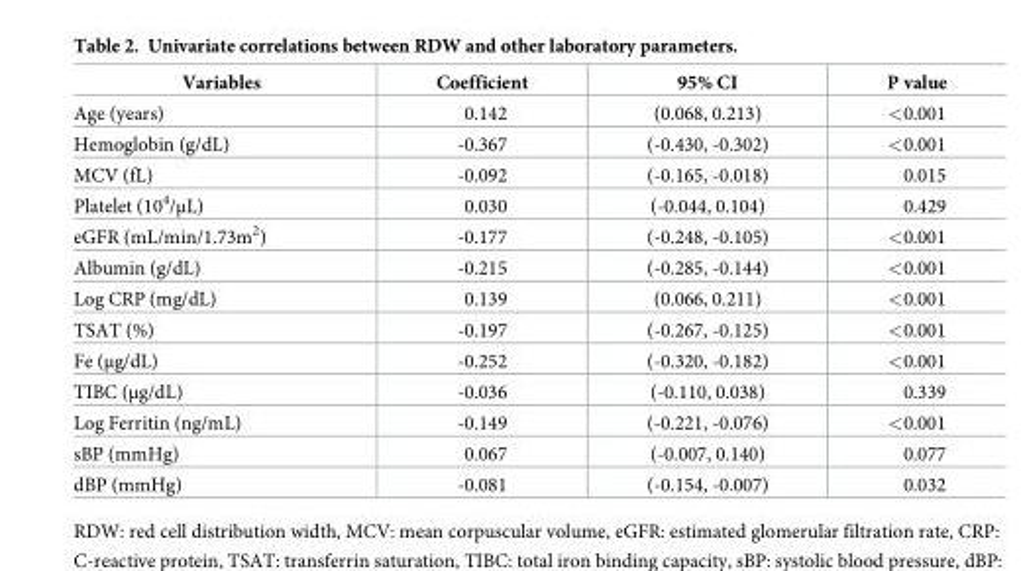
<table><thead><tr><td>Variables</td><td>Coefficient</td><td>95% CI</td><td>P value</td></tr></thead><tbody><tr><td>Age (years)</td><td>0.142</td><td>(0.068, 0.213)</td><td>&lt;0.001</td></tr><tr><td>Hemoglobin (g/dL)</td><td>-0.367</td><td>(-0.430, -0.302)</td><td>&lt;0.001</td></tr><tr><td>MCV (fL)</td><td>-0.092</td><td>(-0.165, -0.018)</td><td>0.015</td></tr><tr><td>Platelet (10<sup>4</sup>/μL)</td><td>0.030</td><td>(-0.044, 0.104)</td><td>0.429</td></tr><tr><td>eGFR (mL/min/1.73m<sup>2</sup>)</td><td>-0.177</td><td>(-0.248, -0.105)</td><td>&lt;0.001</td></tr><tr><td>Albumin (g/dL)</td><td>-0.215</td><td>(-0.285, -0.144)</td><td>&lt;0.001</td></tr><tr><td>Log CRP (mg/dL)</td><td>0.139</td><td>(0.066, 0.211)</td><td>&lt;0.001</td></tr><tr><td>TSAT (%)</td><td>-0.197</td><td>(-0.267, -0.125)</td><td>&lt;0.001</td></tr><tr><td>Fe (μg/dL)</td><td>-0.252</td><td>(-0.320, -0.182)</td><td>&lt;0.001</td></tr><tr><td>TIBC (μg/dL)</td><td>-0.036</td><td>(-0.110, 0.038)</td><td>0.339</td></tr><tr><td>Log Ferritin (ng/mL)</td><td>-0.149</td><td>(-0.221, -0.076)</td><td>&lt;0.001</td></tr><tr><td>sBP (mmHg)</td><td>0.067</td><td>(-0.007, 0.140)</td><td>0.077</td></tr><tr><td>dBP (mmHg)</td><td>-0.081</td><td>(-0.154, -0.007)</td><td>0.032</td></tr></tbody></table>